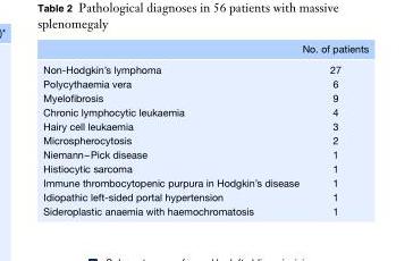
<table><thead><tr><td></td><td>No. of patients</td></tr></thead><tbody><tr><td>Non-Hodgkin’s lymphoma</td><td>27</td></tr><tr><td>Polycythaemia vera</td><td>6</td></tr><tr><td>Myelofibrosis</td><td>9</td></tr><tr><td>Chronic lymphocytic leukaemia</td><td>4</td></tr><tr><td>Hairy cell leukaemia</td><td>3</td></tr><tr><td>Microspherocytosis</td><td>2</td></tr><tr><td>Niemann–Pick disease</td><td>1</td></tr><tr><td>Histiocytic sarcoma</td><td>1</td></tr><tr><td>Immune thrombocytopenic purpura in Hodgkin’s disease</td><td>1</td></tr><tr><td>Idiopathic left-sided portal hypertension</td><td>1</td></tr><tr><td>Sideroplastic anaemia with haemochromatosis</td><td>1</td></tr></tbody></table>